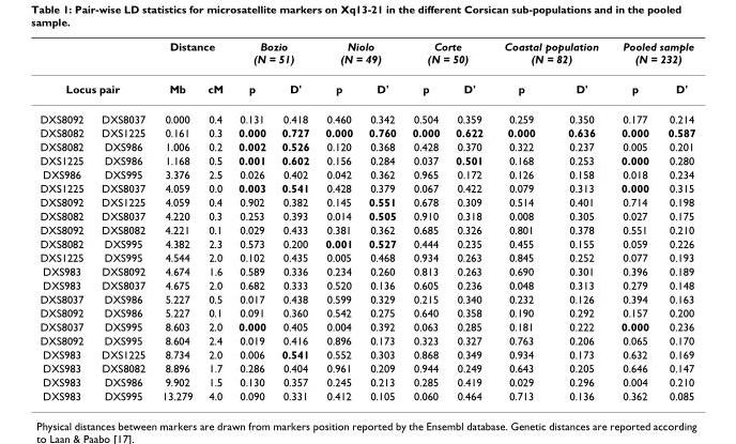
<table><thead><tr><td></td><td></td><td colspan="2">Distance</td><td colspan="2">Bozio (N = 51)</td><td colspan="2">Niolo (N = 49)</td><td colspan="2">Corte (N = 50)</td><td colspan="2">Coastal population (N = 82)</td><td colspan="2">Pooled sample (N = 232)</td></tr><tr><td colspan="2">Locus pair</td><td>Mb</td><td>cM</td><td>p</td><td>D&#x27;</td><td>p</td><td>D&#x27;</td><td>p</td><td>D&#x27;</td><td>p</td><td>D&#x27;</td><td>p</td><td>D&#x27;</td></tr></thead><tbody><tr><td>DXS8092</td><td>DXS8037</td><td>0.000</td><td>0.4</td><td>0.131</td><td>0.418</td><td>0.460</td><td>0.342</td><td>0.504</td><td>0.359</td><td>0.259</td><td>0.350</td><td>0.177</td><td>0.214</td></tr><tr><td>DXS8082</td><td>DXS1225</td><td>0.161</td><td>0.3</td><td>0.000</td><td>0.727</td><td>0.000</td><td>0.760</td><td>0.000</td><td>0.622</td><td>0.000</td><td>0.636</td><td>0.000</td><td>0.587</td></tr><tr><td>DXS8082</td><td>DXS986</td><td>1.006</td><td>0.2</td><td>0.002</td><td>0.526</td><td>0.120</td><td>0.368</td><td>0.428</td><td>0.370</td><td>0.322</td><td>0.237</td><td>0.005</td><td>0.201</td></tr><tr><td>DXS1225</td><td>DXS986</td><td>1.168</td><td>0.5</td><td>0.001</td><td>0.602</td><td>0.156</td><td>0.284</td><td>0.037</td><td>0.501</td><td>0.168</td><td>0.253</td><td>0.000</td><td>0.280</td></tr><tr><td>DXS986</td><td>DXS995</td><td>3.376</td><td>2.5</td><td>0.026</td><td>0.402</td><td>0.042</td><td>0.362</td><td>0.965</td><td>0.172</td><td>0.126</td><td>0.158</td><td>0.018</td><td>0.234</td></tr><tr><td>DXS1225</td><td>DXS8037</td><td>4.059</td><td>0.0</td><td>0.003</td><td>0.541</td><td>0.428</td><td>0.379</td><td>0.067</td><td>0.422</td><td>0.079</td><td>0.313</td><td>0.000</td><td>0.315</td></tr><tr><td>DXS8092</td><td>DXS1225</td><td>4.059</td><td>0.4</td><td>0.902</td><td>0.382</td><td>0.145</td><td>0.551</td><td>0.678</td><td>0.309</td><td>0.514</td><td>0.401</td><td>0.714</td><td>0.198</td></tr><tr><td>DXS8082</td><td>DXS8037</td><td>4.220</td><td>0.3</td><td>0.253</td><td>0.393</td><td>0.014</td><td>0.505</td><td>0.910</td><td>0.318</td><td>0.008</td><td>0.305</td><td>0.027</td><td>0.175</td></tr><tr><td>DXS8092</td><td>DXS8082</td><td>4.221</td><td>0.1</td><td>0.029</td><td>0.433</td><td>0.381</td><td>0.362</td><td>0.685</td><td>0.326</td><td>0.801</td><td>0.378</td><td>0.551</td><td>0.210</td></tr><tr><td>DXS8082</td><td>DXS995</td><td>4.382</td><td>2.3</td><td>0.573</td><td>0.200</td><td>0.001</td><td>0.527</td><td>0.444</td><td>0.235</td><td>0.455</td><td>0.155</td><td>0.059</td><td>0.226</td></tr><tr><td>DXS1225</td><td>DXS995</td><td>4.544</td><td>2.0</td><td>0.102</td><td>0.435</td><td>0.005</td><td>0.468</td><td>0.934</td><td>0.263</td><td>0.845</td><td>0.252</td><td>0.077</td><td>0.193</td></tr><tr><td>DXS983</td><td>DXS8092</td><td>4.674</td><td>1.6</td><td>0.589</td><td>0.336</td><td>0.234</td><td>0.260</td><td>0.813</td><td>0.263</td><td>0.690</td><td>0.301</td><td>0.396</td><td>0.189</td></tr><tr><td>DXS983</td><td>DXS8037</td><td>4.675</td><td>2.0</td><td>0.682</td><td>0.333</td><td>0.520</td><td>0.136</td><td>0.605</td><td>0.236</td><td>0.048</td><td>0.313</td><td>0.279</td><td>0.148</td></tr><tr><td>DXS8037</td><td>DXS986</td><td>5.227</td><td>0.5</td><td>0.017</td><td>0.438</td><td>0.599</td><td>0.329</td><td>0.215</td><td>0.340</td><td>0.232</td><td>0.126</td><td>0.394</td><td>0.163</td></tr><tr><td>DXS8092</td><td>DXS986</td><td>5.227</td><td>0.1</td><td>0.091</td><td>0.360</td><td>0.542</td><td>0.275</td><td>0.640</td><td>0.358</td><td>0.190</td><td>0.292</td><td>0.157</td><td>0.200</td></tr><tr><td>DXS8037</td><td>DXS995</td><td>8.603</td><td>2.0</td><td>0.000</td><td>0.405</td><td>0.004</td><td>0.392</td><td>0.063</td><td>0.285</td><td>0.181</td><td>0.222</td><td>0.000</td><td>0.236</td></tr><tr><td>DXS8092</td><td>DXS995</td><td>8.604</td><td>2.4</td><td>0.019</td><td>0.416</td><td>0.896</td><td>0.173</td><td>0.323</td><td>0.327</td><td>0.763</td><td>0.206</td><td>0.065</td><td>0.170</td></tr><tr><td>DXS983</td><td>DXS1225</td><td>8.734</td><td>2.0</td><td>0.006</td><td>0.541</td><td>0.552</td><td>0.303</td><td>0.868</td><td>0.349</td><td>0.934</td><td>0.173</td><td>0.632</td><td>0.169</td></tr><tr><td>DXS983</td><td>DXS8082</td><td>8.896</td><td>1.7</td><td>0.286</td><td>0.404</td><td>0.961</td><td>0.209</td><td>0.944</td><td>0.249</td><td>0.643</td><td>0.205</td><td>0.646</td><td>0.147</td></tr><tr><td>DXS983</td><td>DXS986</td><td>9.902</td><td>1.5</td><td>0.130</td><td>0.357</td><td>0.245</td><td>0.213</td><td>0.285</td><td>0.419</td><td>0.029</td><td>0.296</td><td>0.004</td><td>0.210</td></tr><tr><td>DXS983</td><td>DXS995</td><td>13.279</td><td>4.0</td><td>0.090</td><td>0.331</td><td>0.412</td><td>0.105</td><td>0.060</td><td>0.464</td><td>0.713</td><td>0.136</td><td>0.362</td><td>0.085</td></tr></tbody></table>